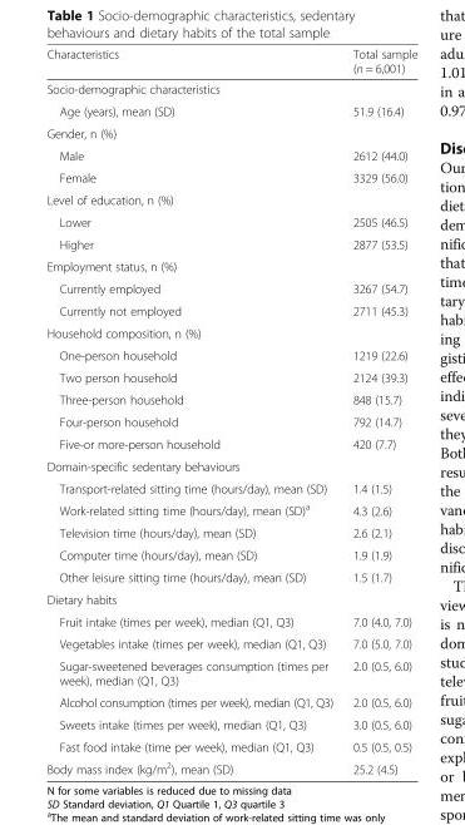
<table><thead><tr><td>Characteristics</td><td>Total sample (n = 6,001)</td></tr></thead><tbody><tr><td colspan="2">Socio-demographic characteristics</td></tr><tr><td>Age (years), mean (SD)</td><td>51.9 (16.4)</td></tr><tr><td colspan="2">Gender, n (%)</td></tr><tr><td>Male</td><td>2612 (44.0)</td></tr><tr><td>Female</td><td>3329 (56.0)</td></tr><tr><td colspan="2">Level of education, n (%)</td></tr><tr><td>Lower</td><td>2505 (46.5)</td></tr><tr><td>Higher</td><td>2877 (53.5)</td></tr><tr><td colspan="2">Employment status, n (%)</td></tr><tr><td>Currently employed</td><td>3267 (54.7)</td></tr><tr><td>Currently not employed</td><td>2711 (45.3)</td></tr><tr><td colspan="2">Household composition, n (%)</td></tr><tr><td>One-person household</td><td>1219 (22.6)</td></tr><tr><td>Two person household</td><td>2124 (39.3)</td></tr><tr><td>Three-person household</td><td>848 (15.7)</td></tr><tr><td>Four-person household</td><td>792 (14.7)</td></tr><tr><td>Five-or more-person household</td><td>420 (7.7)</td></tr><tr><td colspan="2">Domain-specific sedentary behaviours</td></tr><tr><td>Transport-related sitting time (hours/day), mean (SD)</td><td>1.4 (1.5)</td></tr><tr><td>Work-related sitting time (hours/day), mean (SD)<sup>a</sup></td><td>4.3 (2.6)</td></tr><tr><td>Television time (hours/day), mean (SD)</td><td>2.6 (2.1)</td></tr><tr><td>Computer time (hours/day), mean (SD)</td><td>1.9 (1.9)</td></tr><tr><td>Other leisure sitting time (hours/day), mean (SD)</td><td>1.5 (1.7)</td></tr><tr><td colspan="2">Dietary habits</td></tr><tr><td>Fruit intake (times per week), median (Q1, Q3)</td><td>7.0 (4.0, 7.0)</td></tr><tr><td>Vegetables intake (times per week), median (Q1, Q3)</td><td>7.0 (5.0, 7.0)</td></tr><tr><td>Sugar-sweetened beverages consumption (times per week), median (Q1, Q3)</td><td>2.0 (0.5, 6.0)</td></tr><tr><td>Alcohol consumption (times per week), median (Q1, Q3)</td><td>2.0 (0.5, 6.0)</td></tr><tr><td>Sweets intake (times per week), median (Q1, Q3)</td><td>3.0 (0.5, 6.0)</td></tr><tr><td>Fast food intake (time per week), median (Q1, Q3)</td><td>0.5 (0.5, 0.5)</td></tr><tr><td>Body mass index (kg/m<sup>2</sup>), mean (SD)</td><td>25.2 (4.5)</td></tr></tbody></table>